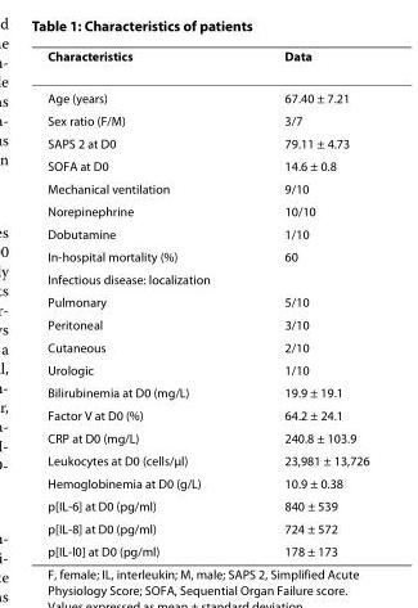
<table><thead><tr><td>Characteristics</td><td>Data</td></tr></thead><tbody><tr><td>Age (years)</td><td>67.40 ± 7.21</td></tr><tr><td>Sex ratio (F/M)</td><td>3/7</td></tr><tr><td>SAPS 2 at D0</td><td>79.11 ± 4.73</td></tr><tr><td>SOFA at D0</td><td>14.6 ± 0.8</td></tr><tr><td>Mechanical ventilation</td><td>9/10</td></tr><tr><td>Norepinephrine</td><td>10/10</td></tr><tr><td>Dobutamine</td><td>1/10</td></tr><tr><td>In-hospital mortality (%)</td><td>60</td></tr><tr><td colspan="2">Infectious disease: localization</td></tr><tr><td>Pulmonary</td><td>5/10</td></tr><tr><td>Peritoneal</td><td>3/10</td></tr><tr><td>Cutaneous</td><td>2/10</td></tr><tr><td>Urologic</td><td>1/10</td></tr><tr><td>Bilirubinemia at D0 (mg/L)</td><td>19.9 ± 19.1</td></tr><tr><td>Factor V at D0 (%)</td><td>64.2 ± 24.1</td></tr><tr><td>CRP at D0 (mg/L)</td><td>240.8 ± 103.9</td></tr><tr><td>Leukocytes at D0 (cells/μl)</td><td>23,981 ± 13,726</td></tr><tr><td>Hemoglobinemia at D0 (g/L)</td><td>10.9 ± 0.38</td></tr><tr><td>p[IL-6] at D0 (pg/ml)</td><td>840 ± 539</td></tr><tr><td>p[IL-8] at D0 (pg/ml)</td><td>724 ± 572</td></tr><tr><td>p[IL-l0] at D0 (pg/ml)</td><td>178 ± 173</td></tr></tbody></table>